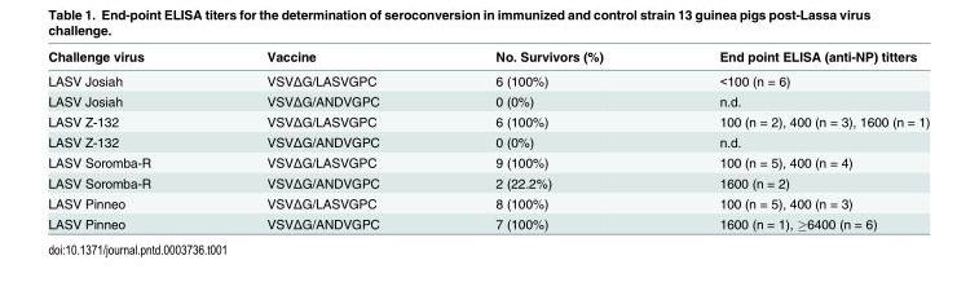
<table><thead><tr><td>Challenge virus</td><td>Vaccine</td><td>No. Survivors (%)</td><td>End point ELISA (anti-NP) titters</td></tr></thead><tbody><tr><td>LASV Josiah</td><td>VSVΔG/LASVGPC</td><td>6 (100%)</td><td>&lt;100 (n = 6)</td></tr><tr><td>LASV Josiah</td><td>VSVΔG/ANDVGPC</td><td>0 (0%)</td><td>n.d.</td></tr><tr><td>LASV Z-132</td><td>VSVΔG/LASVGPC</td><td>6 (100%)</td><td>100 (n = 2), 400 (n = 3), 1600 (n = 1)</td></tr><tr><td>LASV Z-132</td><td>VSVΔG/ANDVGPC</td><td>0 (0%)</td><td>n.d.</td></tr><tr><td>LASV Soromba-R</td><td>VSVΔG/LASVGPC</td><td>9 (100%)</td><td>100 (n = 5), 400 (n = 4)</td></tr><tr><td>LASV Soromba-R</td><td>VSVΔG/ANDVGPC</td><td>2 (22.2%)</td><td>1600 (n = 2)</td></tr><tr><td>LASV Pinneo</td><td>VSVΔG/LASVGPC</td><td>8 (100%)</td><td>100 (n = 5), 400 (n = 3)</td></tr><tr><td>LASV Pinneo</td><td>VSVΔG/ANDVGPC</td><td>7 (100%)</td><td>1600 (n = 1), ≥6400 (n = 6)</td></tr></tbody></table>